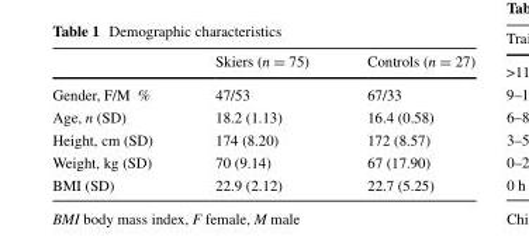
<table><thead><tr><td></td><td>Skiers (n = 75)</td><td>Controls (n = 27)</td></tr></thead><tbody><tr><td>Gender, F/M %</td><td>47/53</td><td>67/33</td></tr><tr><td>Age, n (SD)</td><td>18.2 (1.13)</td><td>16.4 (0.58)</td></tr><tr><td>Height, cm (SD)</td><td>174 (8.20)</td><td>172 (8.57)</td></tr><tr><td>Weight, kg (SD)</td><td>70 (9.14)</td><td>67 (17.90)</td></tr><tr><td>BMI (SD)</td><td>22.9 (2.12)</td><td>22.7 (5.25)</td></tr></tbody></table>